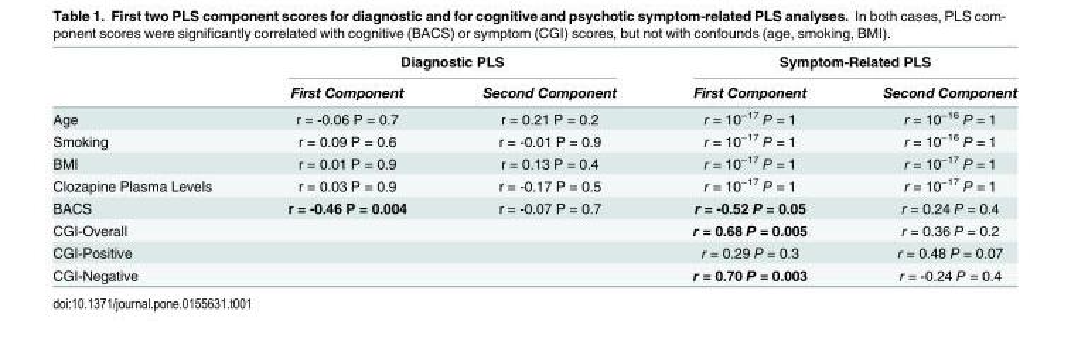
<table><thead><tr><td rowspan="2"></td><td colspan="2">Diagnostic PLS</td><td colspan="2">Symptom-Related PLS</td></tr><tr><td>First Component</td><td>Second Component</td><td>First Component</td><td>Second Component</td></tr></thead><tbody><tr><td>Age</td><td>r = -0.06 P = 0.7</td><td>r = 0.21 P = 0.2</td><td>r = 10<sup>−17</sup> P = 1</td><td>r = 10<sup>−16</sup> P = 1</td></tr><tr><td>Smoking</td><td>r = 0.09 P = 0.6</td><td>r = -0.01 P = 0.9</td><td>r = 10<sup>−17</sup> P = 1</td><td>r = 10<sup>−16</sup> P = 1</td></tr><tr><td>BMI</td><td>r = 0.01 P = 0.9</td><td>r = 0.13 P = 0.4</td><td>r = 10<sup>−17</sup> P = 1</td><td>r = 10<sup>−17</sup> P = 1</td></tr><tr><td>Clozapine Plasma Levels</td><td>r = 0.03 P = 0.9</td><td>r = -0.17 P = 0.5</td><td>r = 10<sup>−17</sup> P = 1</td><td>r = 10<sup>−17</sup> P = 1</td></tr><tr><td>BACS</td><td>r = -0.46 P = 0.004</td><td>r = -0.07 P = 0.7</td><td>r = -0.52 P = 0.05</td><td>r = 0.24 P = 0.4</td></tr><tr><td>CGI-Overall</td><td></td><td></td><td>r = 0.68 P = 0.005</td><td>r = 0.36 P = 0.2</td></tr><tr><td>CGI-Positive</td><td></td><td></td><td>r = 0.29 P = 0.3</td><td>r = 0.48 P = 0.07</td></tr><tr><td>CGI-Negative</td><td></td><td></td><td>r = 0.70 P = 0.003</td><td>r = -0.24 P = 0.4</td></tr></tbody></table>